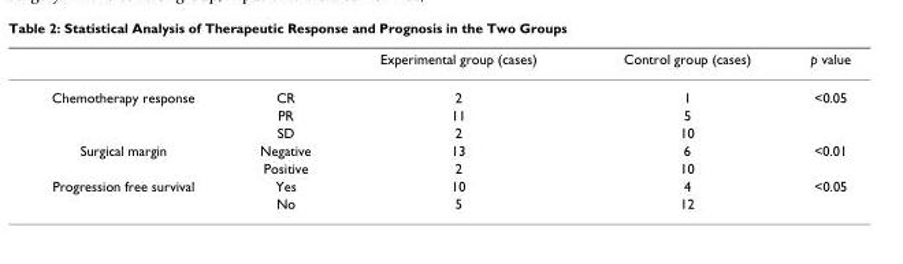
<table><thead><tr><td></td><td></td><td>Experimental group (cases)</td><td>Control group (cases)</td><td>p value</td></tr></thead><tbody><tr><td rowspan="3">Chemotherapy response</td><td>CR</td><td>2</td><td>1</td><td>&lt;0.05</td></tr><tr><td>PR</td><td>11</td><td>5</td><td></td></tr><tr><td>SD</td><td>2</td><td>10</td><td></td></tr><tr><td rowspan="2">Surgical margin</td><td>Negative</td><td>13</td><td>6</td><td>&lt;0.01</td></tr><tr><td>Positive</td><td>2</td><td>10</td><td></td></tr><tr><td rowspan="2">Progression free survival</td><td>Yes</td><td>10</td><td>4</td><td>&lt;0.05</td></tr><tr><td>No</td><td>5</td><td>12</td><td></td></tr></tbody></table>